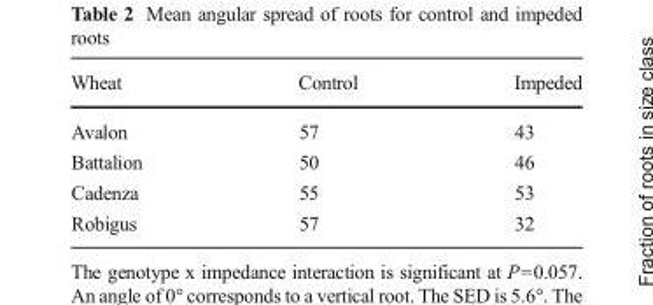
<table><thead><tr><td>Wheat</td><td>Control</td><td>Impeded</td></tr></thead><tbody><tr><td>Avalon</td><td>57</td><td>43</td></tr><tr><td>Battalion</td><td>50</td><td>46</td></tr><tr><td>Cadenza</td><td>55</td><td>53</td></tr><tr><td>Robigus</td><td>57</td><td>32</td></tr></tbody></table>